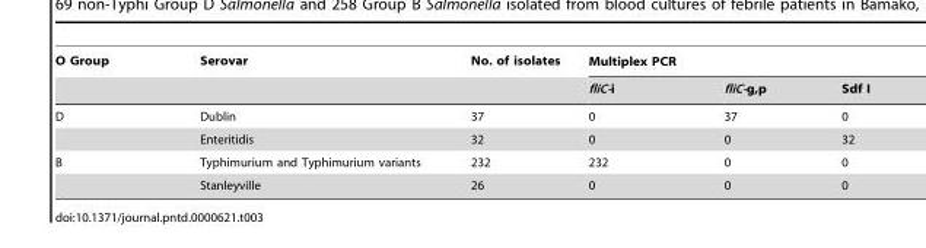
<table><thead><tr><td rowspan="2">O Group</td><td rowspan="2">Serovar</td><td rowspan="2">No. of isolates</td><td colspan="3">Multiplex PCR</td></tr><tr><td>fliC-i</td><td>fliC-g,p</td><td>Sdf I</td></tr></thead><tbody><tr><td rowspan="2">D</td><td>Dublin</td><td>37</td><td>0</td><td>37</td><td>0</td></tr><tr><td>Enteritidis</td><td>32</td><td>0</td><td>0</td><td>32</td></tr><tr><td rowspan="2">B</td><td>Typhimurium and Typhimurium variants</td><td>232</td><td>232</td><td>0</td><td>0</td></tr><tr><td>Stanleyville</td><td>26</td><td>0</td><td>0</td><td>0</td></tr></tbody></table>